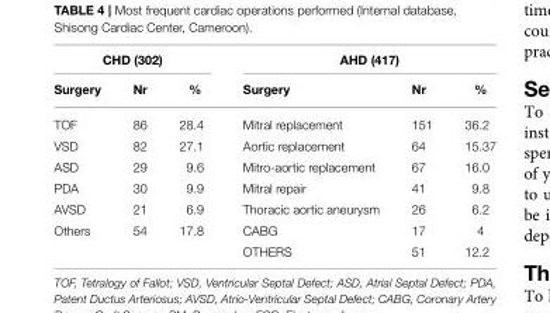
<table><thead><tr><td colspan="3">CHD (302)</td><td colspan="3">AHD (417)</td></tr><tr><td>Surgery</td><td>Nr</td><td>%</td><td>Surgery</td><td>Nr</td><td>%</td></tr></thead><tbody><tr><td>TOF</td><td>86</td><td>28.4</td><td>Mitral replacement</td><td>151</td><td>36.2</td></tr><tr><td>VSD</td><td>82</td><td>27.1</td><td>Aortic replacement</td><td>64</td><td>15.37</td></tr><tr><td>ASD</td><td>29</td><td>9.6</td><td>Mitro-aortic replacement</td><td>67</td><td>16.0</td></tr><tr><td>PDA</td><td>30</td><td>9.9</td><td>Mitral repair</td><td>41</td><td>9.8</td></tr><tr><td>AVSD</td><td>21</td><td>6.9</td><td>Thoracic aortic aneurysm</td><td>26</td><td>6.2</td></tr><tr><td rowspan="2">Others</td><td>54</td><td>17.8</td><td>CABG</td><td>17</td><td>4</td></tr><tr><td></td><td></td><td>OTHERS</td><td>51</td><td>12.2</td></tr></tbody></table>